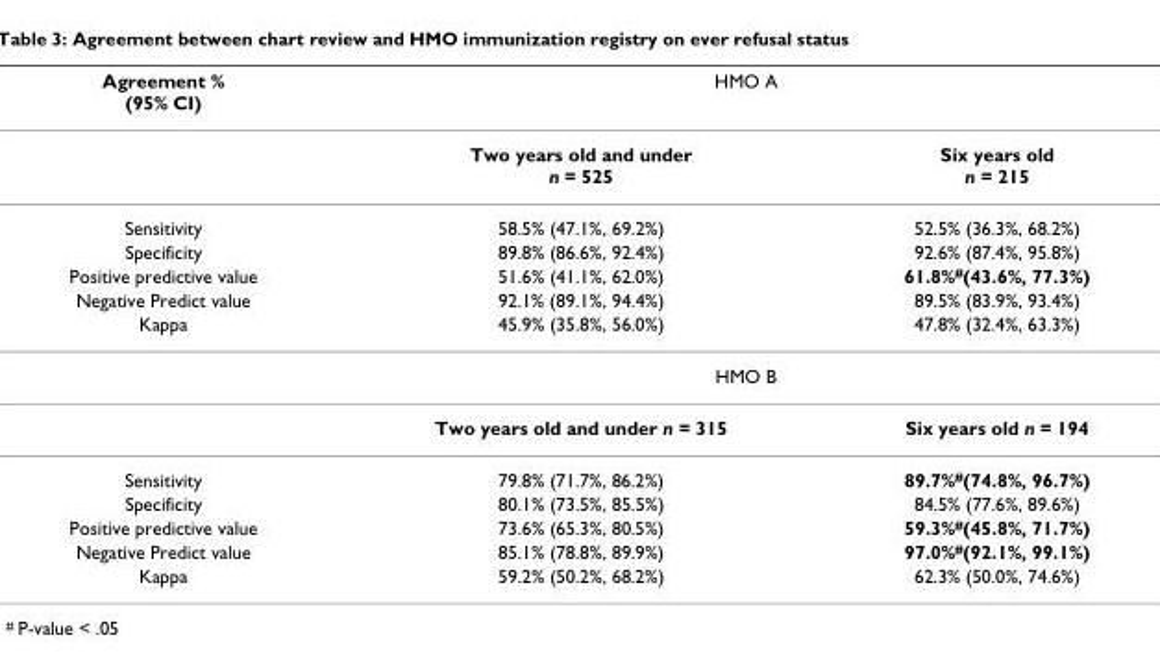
<table><thead><tr><td rowspan="2">Agreement % (95% CI)</td><td colspan="2">HMO A</td></tr><tr><td>Two years old and under n = 525</td><td>Six years old n = 215</td></tr></thead><tbody><tr><td>Sensitivity</td><td>58.5% (47.1%, 69.2%)</td><td>52.5% (36.3%, 68.2%)</td></tr><tr><td>Specificity</td><td>89.8% (86.6%, 92.4%)</td><td>92.6% (87.4%, 95.8%)</td></tr><tr><td>Positive predictive value</td><td>51.6% (41.1%, 62.0%)</td><td>61.8%<sup>#</sup>(43.6%, 77.3%)</td></tr><tr><td>Negative Predict value</td><td>92.1% (89.1%, 94.4%)</td><td>89.5% (83.9%, 93.4%)</td></tr><tr><td rowspan="3">Kappa</td><td>45.9% (35.8%, 56.0%)</td><td>47.8% (32.4%, 63.3%)</td></tr><tr><td colspan="2">HMO B</td></tr><tr><td>Two years old and under n = 315</td><td>Six years old n = 194</td></tr><tr><td>Sensitivity</td><td>79.8% (71.7%, 86.2%)</td><td>89.7%<sup>#</sup>(74.8%, 96.7%)</td></tr><tr><td>Specificity</td><td>80.1% (73.5%, 85.5%)</td><td>84.5% (77.6%, 89.6%)</td></tr><tr><td>Positive predictive value</td><td>73.6% (65.3%, 80.5%)</td><td>59.3%<sup>#</sup>(45.8%, 71.7%)</td></tr><tr><td>Negative Predict value</td><td>85.1% (78.8%, 89.9%)</td><td>97.0%<sup>#</sup>(92.1%, 99.1%)</td></tr><tr><td>Kappa</td><td>59.2% (50.2%, 68.2%)</td><td>62.3% (50.0%, 74.6%)</td></tr></tbody></table>